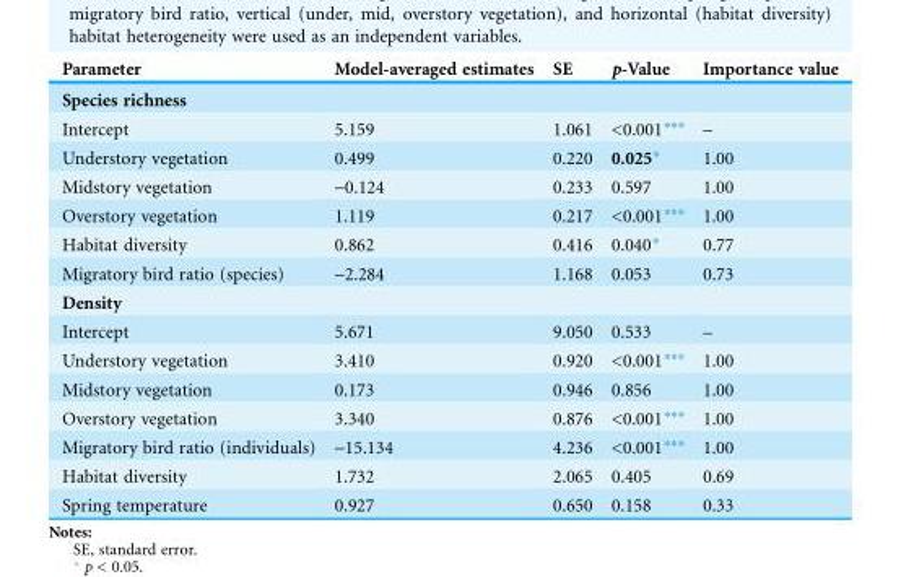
<table><thead><tr><td>Parameter</td><td>Model-averaged estimates</td><td>SE</td><td>p-Value</td><td>Importance value</td></tr></thead><tbody><tr><td colspan="5">Species richness</td></tr><tr><td>Intercept</td><td>5.159</td><td>1.061</td><td>&lt;0.001***</td><td>–</td></tr><tr><td>Understory vegetation</td><td>0.499</td><td>0.220</td><td>0.025*</td><td>1.00</td></tr><tr><td>Midstory vegetation</td><td>-0.124</td><td>0.233</td><td>0.597</td><td>1.00</td></tr><tr><td>Overstory vegetation</td><td>1.119</td><td>0.217</td><td>&lt;0.001***</td><td>1.00</td></tr><tr><td>Habitat diversity</td><td>0.862</td><td>0.416</td><td>0.040*</td><td>0.77</td></tr><tr><td>Migratory bird ratio (species)</td><td>-2.284</td><td>1.168</td><td>0.053</td><td>0.73</td></tr><tr><td colspan="5">Density</td></tr><tr><td>Intercept</td><td>5.671</td><td>9.050</td><td>0.533</td><td>–</td></tr><tr><td>Understory vegetation</td><td>3.410</td><td>0.920</td><td>&lt;0.001***</td><td>1.00</td></tr><tr><td>Midstory vegetation</td><td>0.173</td><td>0.946</td><td>0.856</td><td>1.00</td></tr><tr><td>Overstory vegetation</td><td>3.340</td><td>0.876</td><td>&lt;0.001***</td><td>1.00</td></tr><tr><td>Migratory bird ratio (individuals)</td><td>-15.134</td><td>4.236</td><td>&lt;0.001***</td><td>1.00</td></tr><tr><td>Habitat diversity</td><td>1.732</td><td>2.065</td><td>0.405</td><td>0.69</td></tr><tr><td>Spring temperature</td><td>0.927</td><td>0.650</td><td>0.158</td><td>0.33</td></tr></tbody></table>